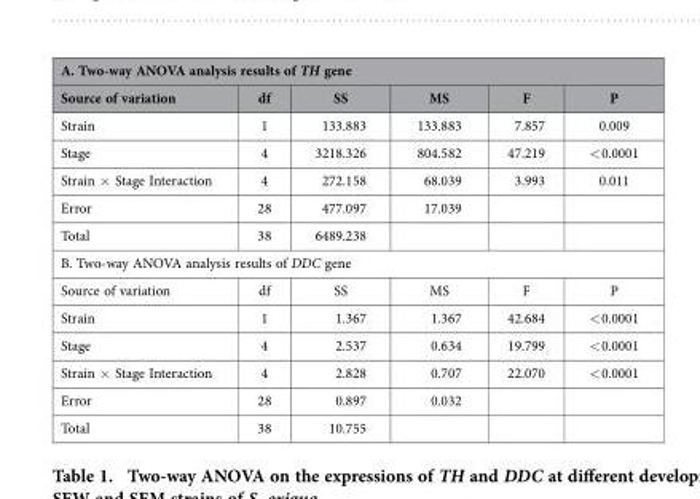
<table><thead><tr><td colspan="6">A. Two-way ANOVA analysis results of TH gene</td></tr><tr><td>Source of variation</td><td>df</td><td>SS</td><td>MS</td><td>F</td><td>P</td></tr></thead><tbody><tr><td>Strain</td><td>1</td><td>133.883</td><td>133.883</td><td>7.857</td><td>0.009</td></tr><tr><td>Stage</td><td>4</td><td>3218.326</td><td>804.582</td><td>47.219</td><td>&lt; 0.0001</td></tr><tr><td>Strain × Stage Interaction</td><td>4</td><td>272.158</td><td>68.039</td><td>3.993</td><td>0.011</td></tr><tr><td>Error</td><td>28</td><td>477.097</td><td>17.039</td><td></td><td></td></tr><tr><td>Total</td><td>38</td><td>6489.238</td><td></td><td></td><td></td></tr><tr><td colspan="6">B. Two-way ANOVA analysis results of DDC gene</td></tr><tr><td>Source of variation</td><td>df</td><td>SS</td><td>MS</td><td>F</td><td>P</td></tr><tr><td>Strain</td><td>1</td><td>1.367</td><td>1.367</td><td>42.684</td><td>&lt; 0.0001</td></tr><tr><td>Stage</td><td>4</td><td>2.537</td><td>0.634</td><td>19.799</td><td>&lt; 0.0001</td></tr><tr><td>Strain × Stage Interaction</td><td>4</td><td>2.828</td><td>0.707</td><td>22.070</td><td>&lt; 0.0001</td></tr><tr><td>Error</td><td>28</td><td>0.897</td><td>0.032</td><td></td><td></td></tr><tr><td>Total</td><td>38</td><td>10.755</td><td></td><td></td><td></td></tr></tbody></table>